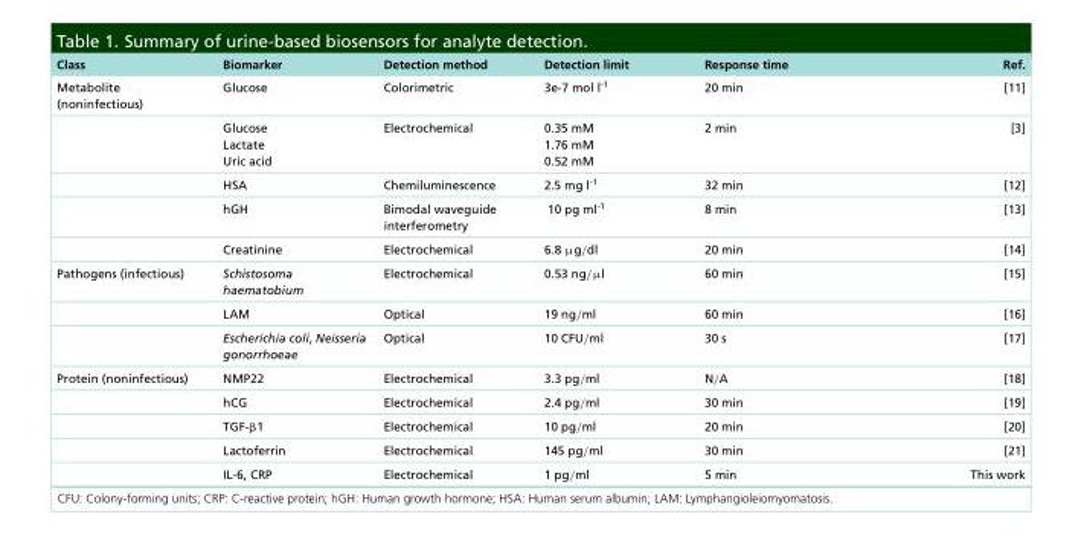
<table><thead><tr><td>Class</td><td>Biomarker</td><td>Detection method</td><td>Detection limit</td><td>Response time</td><td>Ref.</td></tr></thead><tbody><tr><td rowspan="5">Metabolite (noninfectious)</td><td>Glucose</td><td>Colorimetric</td><td>3e-7 mol l<sup>-1</sup></td><td>20 min</td><td>[11]</td></tr><tr><td>Glucose Lactate Uric acid</td><td>Electrochemical</td><td>0.35 mM 1.76 mM 0.52 mM</td><td>2 min</td><td>[3]</td></tr><tr><td>HSA</td><td>Chemiluminescence</td><td>2.5 mg l<sup>-1</sup></td><td>32 min</td><td>[12]</td></tr><tr><td>hGH</td><td>Bimodal waveguide interferometry</td><td>10 pg ml<sup>-1</sup></td><td>8 min</td><td>[13]</td></tr><tr><td>Creatinine</td><td>Electrochemical</td><td>6.8 μg/dl</td><td>20 min</td><td>[14]</td></tr><tr><td rowspan="3">Pathogens (infectious)</td><td>Schistosoma haematobium</td><td>Electrochemical</td><td>0.53 ng/μl</td><td>60 min</td><td>[15]</td></tr><tr><td>LAM</td><td>Optical</td><td>19 ng/ml</td><td>60 min</td><td>[16]</td></tr><tr><td>Escherichia coli, Neisseria gonorrhoeae</td><td>Optical</td><td>10 CFU/ml</td><td>30 s</td><td>[17]</td></tr><tr><td rowspan="5">Protein (noninfectious)</td><td>NMP22</td><td>Electrochemical</td><td>3.3 pg/ml</td><td>N/A</td><td>[18]</td></tr><tr><td>hCG</td><td>Electrochemical</td><td>2.4 pg/ml</td><td>30 min</td><td>[19]</td></tr><tr><td>TGF-β1</td><td>Electrochemical</td><td>10 pg/ml</td><td>20 min</td><td>[20]</td></tr><tr><td>Lactoferrin</td><td>Electrochemical</td><td>145 pg/ml</td><td>30 min</td><td>[21]</td></tr><tr><td>IL-6, CRP</td><td>Electrochemical</td><td>1 pg/ml</td><td>5 min</td><td>This work</td></tr></tbody></table>